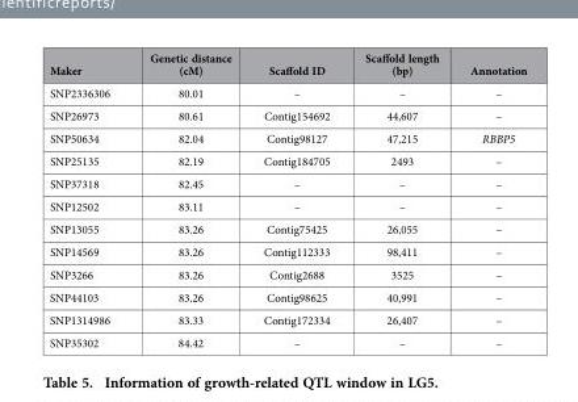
<table><thead><tr><td>Maker</td><td>Genetic distance (cM)</td><td>Scaffold ID</td><td>Scaffold length (bp)</td><td>Annotation</td></tr></thead><tbody><tr><td>SNP2336306</td><td>80.01</td><td>–</td><td>–</td><td>–</td></tr><tr><td>SNP26973</td><td>80.61</td><td>Contig154692</td><td>44,607</td><td>–</td></tr><tr><td>SNP50634</td><td>82.04</td><td>Contig98127</td><td>47,215</td><td>RBBP5</td></tr><tr><td>SNP25135</td><td>82.19</td><td>Contig184705</td><td>2493</td><td>–</td></tr><tr><td>SNP37318</td><td>82.45</td><td>–</td><td>–</td><td>–</td></tr><tr><td>SNP12502</td><td>83.11</td><td>–</td><td>–</td><td>–</td></tr><tr><td>SNP13055</td><td>83.26</td><td>Contig75425</td><td>26,055</td><td>–</td></tr><tr><td>SNP14569</td><td>83.26</td><td>Contig112333</td><td>98,411</td><td>–</td></tr><tr><td>SNP3266</td><td>83.26</td><td>Contig2688</td><td>3525</td><td>–</td></tr><tr><td>SNP44103</td><td>83.26</td><td>Contig98625</td><td>40,991</td><td>–</td></tr><tr><td>SNP1314986</td><td>83.33</td><td>Contig172334</td><td>26,407</td><td>–</td></tr><tr><td>SNP35302</td><td>84.42</td><td>–</td><td>–</td><td>–</td></tr></tbody></table>